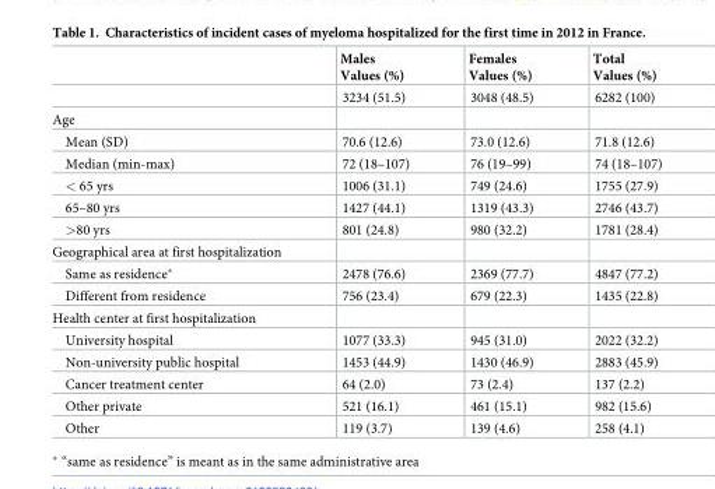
<table><thead><tr><td></td><td>Males Values (%)</td><td>Females Values (%)</td><td>Total Values (%)</td></tr></thead><tbody><tr><td></td><td>3234 (51.5)</td><td>3048 (48.5)</td><td>6282 (100)</td></tr><tr><td colspan="4">Age</td></tr><tr><td>Mean (SD)</td><td>70.6 (12.6)</td><td>73.0 (12.6)</td><td>71.8 (12.6)</td></tr><tr><td>Median (min-max)</td><td>72 (18–107)</td><td>76 (19–99)</td><td>74 (18–107)</td></tr><tr><td>&lt; 65 yrs</td><td>1006 (31.1)</td><td>749 (24.6)</td><td>1755 (27.9)</td></tr><tr><td>65–80 yrs</td><td>1427 (44.1)</td><td>1319 (43.3)</td><td>2746 (43.7)</td></tr><tr><td>&gt;80 yrs</td><td>801 (24.8)</td><td>980 (32.2)</td><td>1781 (28.4)</td></tr><tr><td colspan="4">Geographical area at first hospitalization</td></tr><tr><td>Same as residence*</td><td>2478 (76.6)</td><td>2369 (77.7)</td><td>4847 (77.2)</td></tr><tr><td>Different from residence</td><td>756 (23.4)</td><td>679 (22.3)</td><td>1435 (22.8)</td></tr><tr><td colspan="4">Health center at first hospitalization</td></tr><tr><td>University hospital</td><td>1077 (33.3)</td><td>945 (31.0)</td><td>2022 (32.2)</td></tr><tr><td>Non-university public hospital</td><td>1453 (44.9)</td><td>1430 (46.9)</td><td>2883 (45.9)</td></tr><tr><td>Cancer treatment center</td><td>64 (2.0)</td><td>73 (2.4)</td><td>137 (2.2)</td></tr><tr><td>Other private</td><td>521 (16.1)</td><td>461 (15.1)</td><td>982 (15.6)</td></tr><tr><td>Other</td><td>119 (3.7)</td><td>139 (4.6)</td><td>258 (4.1)</td></tr></tbody></table>